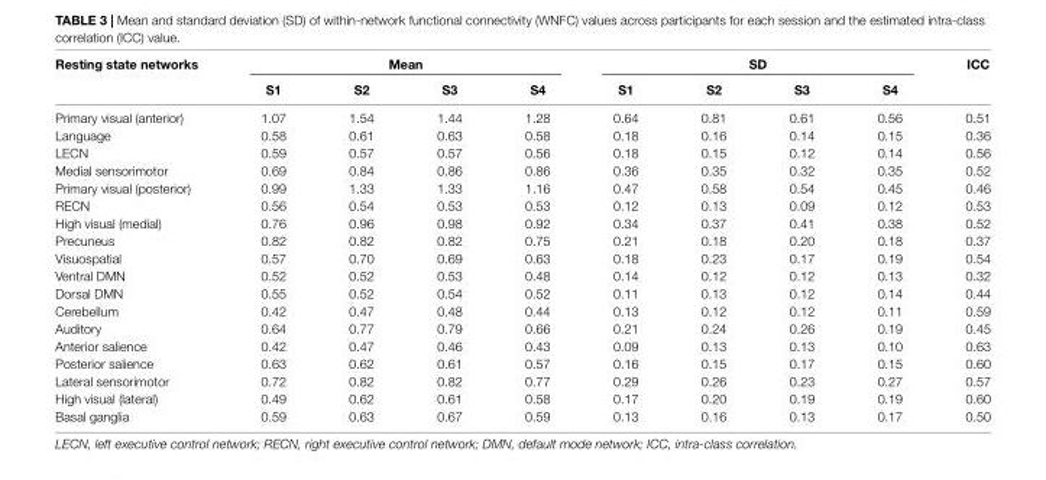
<table><thead><tr><td rowspan="2">Resting state networks</td><td colspan="4">Mean</td><td colspan="4">SD</td><td rowspan="2">ICC</td></tr><tr><td>S1</td><td>S2</td><td>S3</td><td>S4</td><td>S1</td><td>S2</td><td>S3</td><td>S4</td></tr></thead><tbody><tr><td>Primary visual (anterior)</td><td>1.07</td><td>1.54</td><td>1.44</td><td>1.28</td><td>0.64</td><td>0.81</td><td>0.61</td><td>0.56</td><td>0.51</td></tr><tr><td>Language</td><td>0.58</td><td>0.61</td><td>0.63</td><td>0.58</td><td>0.18</td><td>0.16</td><td>0.14</td><td>0.15</td><td>0.36</td></tr><tr><td>LECN</td><td>0.59</td><td>0.57</td><td>0.57</td><td>0.56</td><td>0.18</td><td>0.15</td><td>0.12</td><td>0.14</td><td>0.56</td></tr><tr><td>Medial sensorimotor</td><td>0.69</td><td>0.84</td><td>0.86</td><td>0.86</td><td>0.36</td><td>0.35</td><td>0.32</td><td>0.35</td><td>0.52</td></tr><tr><td>Primary visual (posterior)</td><td>0.99</td><td>1.33</td><td>1.33</td><td>1.16</td><td>0.47</td><td>0.58</td><td>0.54</td><td>0.45</td><td>0.46</td></tr><tr><td>RECN</td><td>0.56</td><td>0.54</td><td>0.53</td><td>0.53</td><td>0.12</td><td>0.13</td><td>0.09</td><td>0.12</td><td>0.53</td></tr><tr><td>High visual (medial)</td><td>0.76</td><td>0.96</td><td>0.98</td><td>0.92</td><td>0.34</td><td>0.37</td><td>0.41</td><td>0.38</td><td>0.52</td></tr><tr><td>Precuneus</td><td>0.82</td><td>0.82</td><td>0.82</td><td>0.75</td><td>0.21</td><td>0.18</td><td>0.20</td><td>0.18</td><td>0.37</td></tr><tr><td>Visuospatial</td><td>0.57</td><td>0.70</td><td>0.69</td><td>0.63</td><td>0.18</td><td>0.23</td><td>0.17</td><td>0.19</td><td>0.54</td></tr><tr><td>Ventral DMN</td><td>0.52</td><td>0.52</td><td>0.53</td><td>0.48</td><td>0.14</td><td>0.12</td><td>0.12</td><td>0.13</td><td>0.32</td></tr><tr><td>Dorsal DMN</td><td>0.55</td><td>0.52</td><td>0.54</td><td>0.52</td><td>0.11</td><td>0.13</td><td>0.12</td><td>0.14</td><td>0.44</td></tr><tr><td>Cerebellum</td><td>0.42</td><td>0.47</td><td>0.48</td><td>0.44</td><td>0.13</td><td>0.12</td><td>0.12</td><td>0.11</td><td>0.59</td></tr><tr><td>Auditory</td><td>0.64</td><td>0.77</td><td>0.79</td><td>0.66</td><td>0.21</td><td>0.24</td><td>0.26</td><td>0.19</td><td>0.45</td></tr><tr><td>Anterior salience</td><td>0.42</td><td>0.47</td><td>0.46</td><td>0.43</td><td>0.09</td><td>0.13</td><td>0.13</td><td>0.10</td><td>0.63</td></tr><tr><td>Posterior salience</td><td>0.63</td><td>0.62</td><td>0.61</td><td>0.57</td><td>0.16</td><td>0.15</td><td>0.17</td><td>0.15</td><td>0.60</td></tr><tr><td>Lateral sensorimotor</td><td>0.72</td><td>0.82</td><td>0.82</td><td>0.77</td><td>0.29</td><td>0.26</td><td>0.23</td><td>0.27</td><td>0.57</td></tr><tr><td>High visual (lateral)</td><td>0.49</td><td>0.62</td><td>0.61</td><td>0.58</td><td>0.17</td><td>0.20</td><td>0.19</td><td>0.19</td><td>0.60</td></tr><tr><td>Basal ganglia</td><td>0.59</td><td>0.63</td><td>0.67</td><td>0.59</td><td>0.13</td><td>0.16</td><td>0.13</td><td>0.17</td><td>0.50</td></tr></tbody></table>